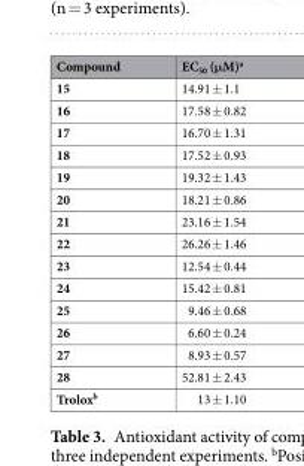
<table><thead><tr><td>Compound</td><td>EC<sub>50</sub> (μM)<sup>a</sup></td></tr></thead><tbody><tr><td>15</td><td>14.91 ± 1.1</td></tr><tr><td>16</td><td>17.58 ± 0.82</td></tr><tr><td>17</td><td>16.70 ± 1.31</td></tr><tr><td>18</td><td>17.52 ± 0.93</td></tr><tr><td>19</td><td>19.32 ± 1.43</td></tr><tr><td>20</td><td>18.21 ± 0.86</td></tr><tr><td>21</td><td>23.16 ± 1.54</td></tr><tr><td>22</td><td>26.26 ± 1.46</td></tr><tr><td>23</td><td>12.54 ± 0.44</td></tr><tr><td>24</td><td>15.42 ± 0.81</td></tr><tr><td>25</td><td>9.46 ± 0.68</td></tr><tr><td>26</td><td>6.60 ± 0.24</td></tr><tr><td>27</td><td>8.93 ± 0.57</td></tr><tr><td>28</td><td>52.81 ± 2.43</td></tr><tr><td>Trolox<sup>b</sup></td><td>13 ± 1.10</td></tr></tbody></table>